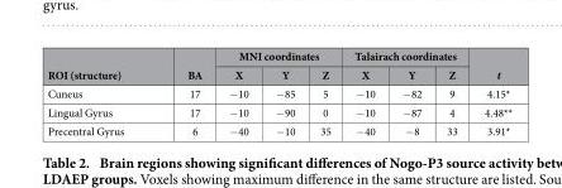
<table><thead><tr><td rowspan="2">ROI (structure)</td><td rowspan="2">BA</td><td colspan="3">MNI coordinates</td><td colspan="3">Talairach coordinates</td><td rowspan="2">t</td></tr><tr><td>X</td><td>Y</td><td>Z</td><td>X</td><td>Y</td><td>Z</td></tr></thead><tbody><tr><td>Cuneus</td><td>17</td><td>− 10</td><td>− 85</td><td>5</td><td>− 10</td><td>− 82</td><td>9</td><td>4.15*</td></tr><tr><td>Lingual Gyrus</td><td>17</td><td>− 10</td><td>− 90</td><td>0</td><td>− 10</td><td>− 87</td><td>4</td><td>4.48**</td></tr><tr><td>Precentral Gyrus</td><td>6</td><td>− 40</td><td>− 10</td><td>35</td><td>− 40</td><td>− 8</td><td>33</td><td>3.91*</td></tr></tbody></table>